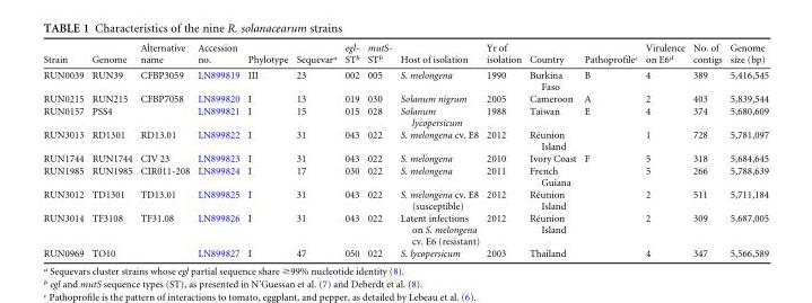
<table><thead><tr><td>Strain</td><td>Genome</td><td>Alternative name</td><td>Accession no.</td><td>Phylotype</td><td>Sequevar<sup>a</sup></td><td>egl- ST<sup>b</sup></td><td>mutS- ST<sup>b</sup></td><td>Host of isolation</td><td>Yr of isolation</td><td>Country</td><td>Pathoprofile<sup>c</sup></td><td>Virulence on E6<sup>d</sup></td><td>No. of contigs</td><td>Genome size (bp)</td></tr></thead><tbody><tr><td>RUN0039</td><td>RUN39</td><td>CFBP3059</td><td>LN899819</td><td>III</td><td>23</td><td>002</td><td>005</td><td>S. melongena</td><td>1990</td><td>Burkina Faso</td><td>B</td><td>4</td><td>389</td><td>5,416,545</td></tr><tr><td>RUN0215</td><td>RUN215</td><td>CFBP7058</td><td>LN899820</td><td>I</td><td>13</td><td>019</td><td>030</td><td>Solanum nigrum</td><td>2005</td><td>Cameroon</td><td>A</td><td>2</td><td>403</td><td>5,839,544</td></tr><tr><td>RUN0157</td><td>PSS4</td><td></td><td>LN899821</td><td>I</td><td>15</td><td>015</td><td>028</td><td>Solanum lycopersicum</td><td>1988</td><td>Taiwan</td><td>E</td><td>4</td><td>374</td><td>5,680,609</td></tr><tr><td>RUN3013</td><td>RD1301</td><td>RD13.01</td><td>LN899822</td><td>I</td><td>31</td><td>043</td><td>022</td><td>S. melongena cv. E8</td><td>2012</td><td>Réunion Island</td><td></td><td>1</td><td>728</td><td>5,781,097</td></tr><tr><td>RUN1744</td><td>RUN1744</td><td>CIV 23</td><td>LN899823</td><td>I</td><td>31</td><td>043</td><td>022</td><td>S. melongena</td><td>2010</td><td>Ivory Coast</td><td>F</td><td>5</td><td>318</td><td>5,684,645</td></tr><tr><td>RUN1985</td><td>RUN1985</td><td>CIR011-208</td><td>LN899824</td><td>I</td><td>17</td><td>030</td><td>022</td><td>S. melongena</td><td>2011</td><td>French Guiana</td><td></td><td>5</td><td>266</td><td>5,788,639</td></tr><tr><td>RUN3012</td><td>TD1301</td><td>TD13.01</td><td>LN899825</td><td>I</td><td>31</td><td>043</td><td>022</td><td>S. melongena cv. E8 (susceptible)</td><td>2012</td><td>Réunion Island</td><td></td><td>2</td><td>511</td><td>5,711,184</td></tr><tr><td>RUN3014</td><td>TF3108</td><td>TF31.08</td><td>LN899826</td><td>I</td><td>31</td><td>043</td><td>022</td><td>Latent infections on S. melongena cv. E6 (resistant)</td><td>2012</td><td>Réunion Island</td><td></td><td>2</td><td>309</td><td>5,687,005</td></tr><tr><td>RUN0969</td><td>TO10</td><td></td><td>LN899827</td><td>I</td><td>47</td><td>050</td><td>022</td><td>S. lycopersicum</td><td>2003</td><td>Thailand</td><td></td><td>4</td><td>347</td><td>5,566,589</td></tr></tbody></table>